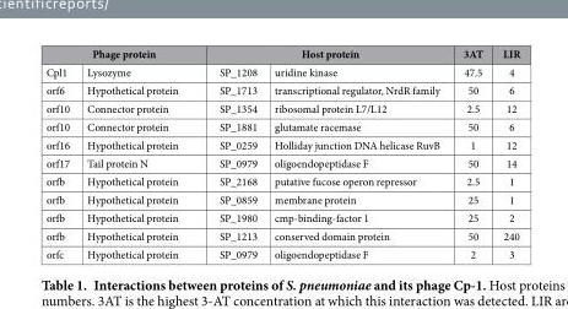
<table><thead><tr><td colspan="2">Phage protein</td><td colspan="2">Host protein</td><td rowspan="2">3AT 47.5</td><td rowspan="2">LIR 4</td></tr><tr><td>Cpl1</td><td>Lysozyme</td><td>SP_1208</td><td>uridine kinase</td></tr></thead><tbody><tr><td>orf6</td><td>Hypothetical protein</td><td>SP_1713</td><td>transcriptional regulator, NrdR family</td><td>50</td><td>6</td></tr><tr><td>orf10</td><td>Connector protein</td><td>SP_1354</td><td>ribosomal protein L7/L12</td><td>2.5</td><td>12</td></tr><tr><td>orf10</td><td>Connector protein</td><td>SP_1881</td><td>glutamate racemase</td><td>50</td><td>6</td></tr><tr><td>orf16</td><td>Hypothetical protein</td><td>SP_0259</td><td>Holliday junction DNA helicase RuvB</td><td>1</td><td>12</td></tr><tr><td>orf17</td><td>Tail protein N</td><td>SP_0979</td><td>oligoendopeptidase F</td><td>50</td><td>14</td></tr><tr><td>orfb</td><td>Hypothetical protein</td><td>SP_2168</td><td>putative fucose operon repressor</td><td>2.5</td><td>1</td></tr><tr><td>orfb</td><td>Hypothetical protein</td><td>SP_0859</td><td>membrane protein</td><td>25</td><td>1</td></tr><tr><td>orfb</td><td>Hypothetical protein</td><td>SP_1980</td><td>cmp-binding-factor 1</td><td>25</td><td>2</td></tr><tr><td>orfb</td><td>Hypothetical protein</td><td>SP_1213</td><td>conserved domain protein</td><td>50</td><td>240</td></tr><tr><td>orfc</td><td>Hypothetical protein</td><td>SP_0979</td><td>oligoendopeptidase F</td><td>2</td><td>3</td></tr></tbody></table>